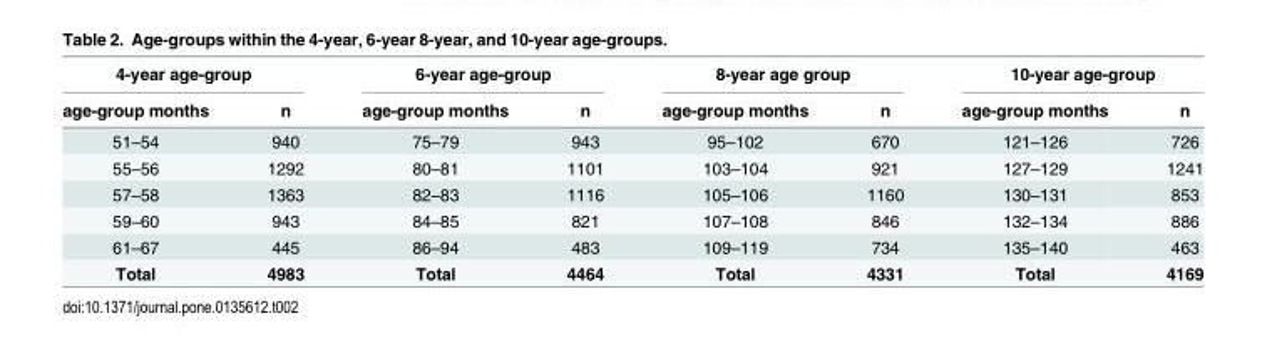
<table><thead><tr><td colspan="2">4-year age-group</td><td colspan="2">6-year age-group</td><td colspan="2">8-year age group</td><td colspan="2">10-year age-group</td></tr><tr><td>age-group months</td><td>n</td><td>age-group months</td><td>n</td><td>age-group months</td><td>n</td><td>age-group months</td><td>n</td></tr></thead><tbody><tr><td>51–54</td><td>940</td><td>75–79</td><td>943</td><td>95–102</td><td>670</td><td>121–126</td><td>726</td></tr><tr><td>55–56</td><td>1292</td><td>80–81</td><td>1101</td><td>103–104</td><td>921</td><td>127–129</td><td>1241</td></tr><tr><td>57–58</td><td>1363</td><td>82–83</td><td>1116</td><td>105–106</td><td>1160</td><td>130–131</td><td>853</td></tr><tr><td>59–60</td><td>943</td><td>84–85</td><td>821</td><td>107–108</td><td>846</td><td>132–134</td><td>886</td></tr><tr><td>61–67</td><td>445</td><td>86–94</td><td>483</td><td>109–119</td><td>734</td><td>135–140</td><td>463</td></tr><tr><td>Total</td><td>4983</td><td>Total</td><td>4464</td><td>Total</td><td>4331</td><td>Total</td><td>4169</td></tr></tbody></table>